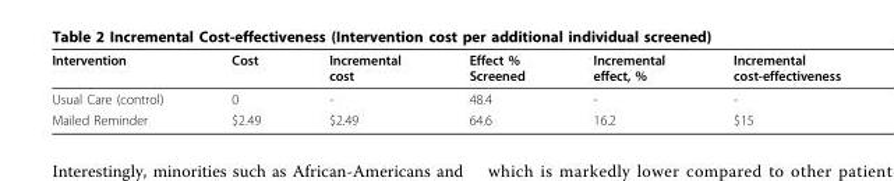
<table><thead><tr><td>Intervention</td><td>Cost</td><td>Incremental cost</td><td>Effect % Screened</td><td>Incremental effect, %</td><td>Incremental cost-effectiveness</td></tr></thead><tbody><tr><td>Usual Care (control)</td><td>0</td><td>-</td><td>48.4</td><td>-</td><td>-</td></tr><tr><td>Mailed Reminder</td><td>$2.49</td><td>$2.49</td><td>64.6</td><td>16.2</td><td>$15</td></tr></tbody></table>